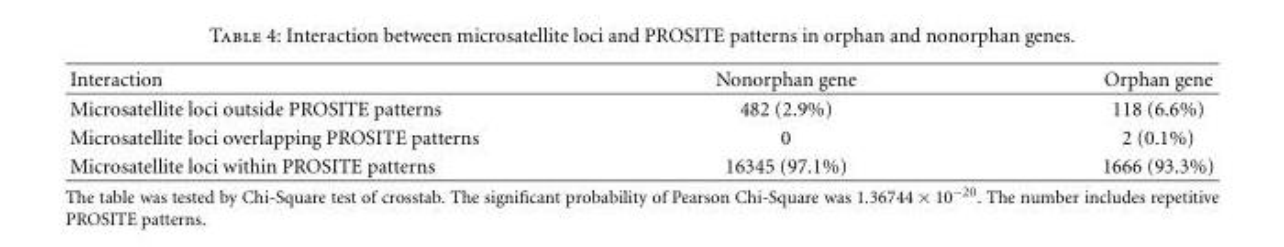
<table><thead><tr><td>Interaction</td><td>Nonorphan gene</td><td>Orphan gene</td></tr></thead><tbody><tr><td>Microsatellite loci outside PROSITE patterns</td><td>482 (2.9%)</td><td>118 (6.6%)</td></tr><tr><td>Microsatellite loci overlapping PROSITE patterns</td><td>0</td><td>2 (0.1%)</td></tr><tr><td>Microsatellite loci within PROSITE patterns</td><td>16345 (97.1%)</td><td>1666 (93.3%)</td></tr></tbody></table>